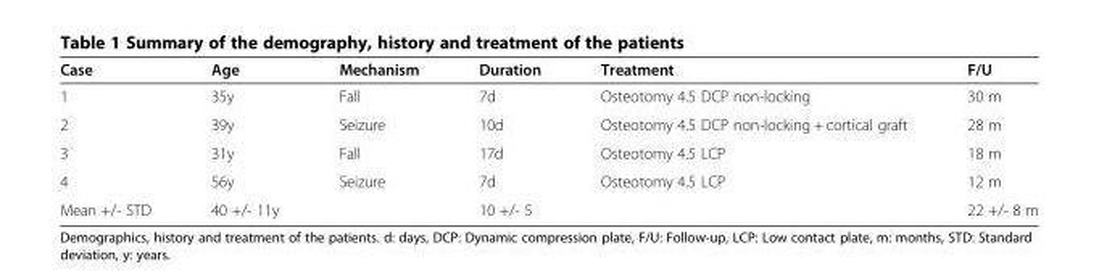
<table><thead><tr><td>Case</td><td>Age</td><td>Mechanism</td><td>Duration</td><td>Treatment</td><td>F/U</td></tr></thead><tbody><tr><td>1</td><td>35y</td><td>Fall</td><td>7d</td><td>Osteotomy 4.5 DCP non-locking</td><td>30 m</td></tr><tr><td>2</td><td>39y</td><td>Seizure</td><td>10d</td><td>Osteotomy 4.5 DCP non-locking + cortical graft</td><td>28 m</td></tr><tr><td>3</td><td>31y</td><td>Fall</td><td>17d</td><td>Osteotomy 4.5 LCP</td><td>18 m</td></tr><tr><td>4</td><td>56y</td><td>Seizure</td><td>7d</td><td>Osteotomy 4.5 LCP</td><td>12 m</td></tr><tr><td>Mean +/- STD</td><td>40 +/- 11y</td><td></td><td>10 +/- 5</td><td></td><td>22 +/- 8 m</td></tr></tbody></table>